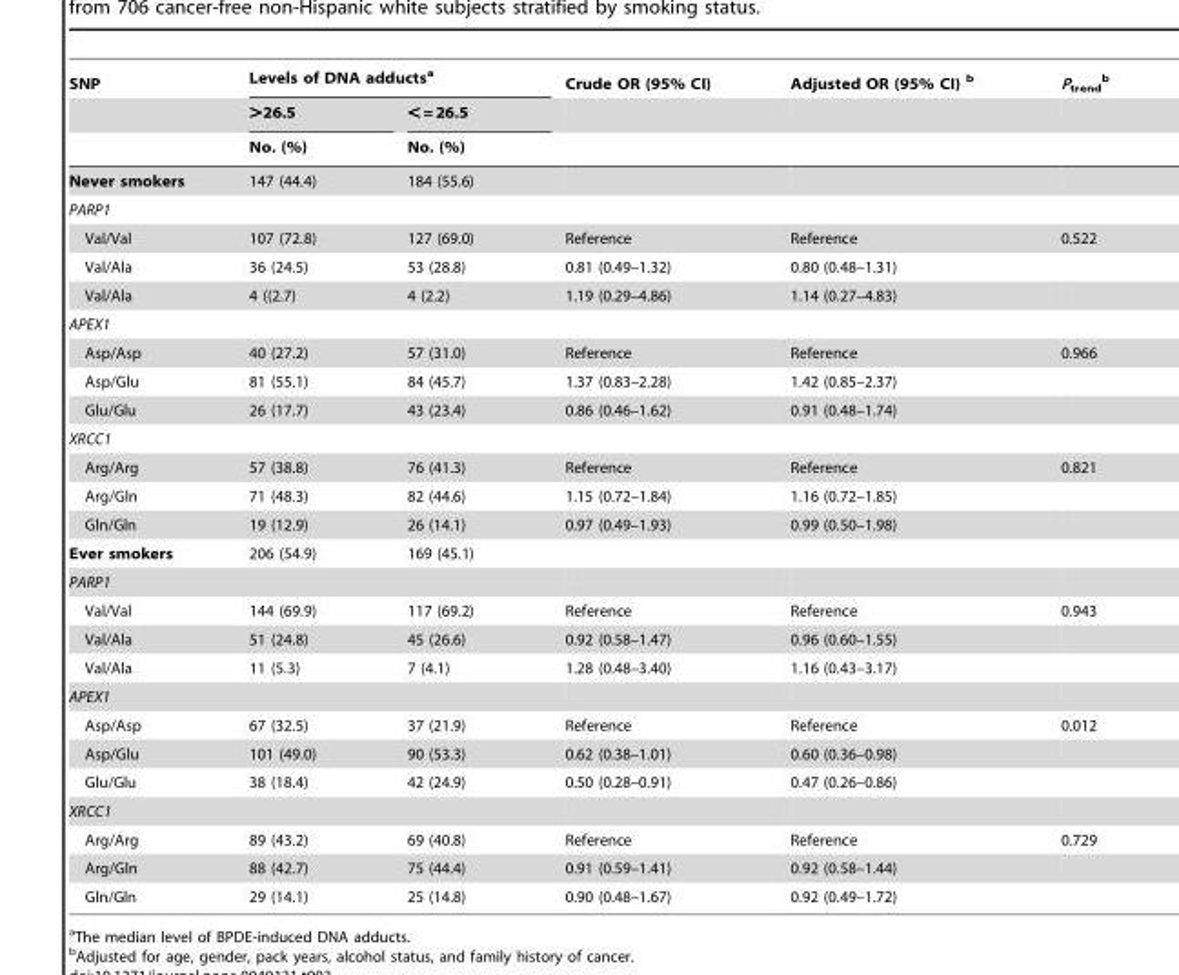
<table><thead><tr><td rowspan="3">SNP</td><td colspan="2">Levels of DNA adducts<sup>a</sup></td><td rowspan="3">Crude OR (95% CI)</td><td rowspan="3">Adjusted OR (95% CI) b</td><td rowspan="3">P<sub>trend</sub> b</td></tr><tr><td rowspan="2">&gt;26.5 No. (%)</td><td rowspan="2">&lt; = 26.5 No. (%)</td></tr><tr></tr></thead><tbody><tr><td>Never smokers</td><td>147 (44.4)</td><td>184 (55.6)</td><td></td><td></td><td></td></tr><tr><td colspan="6">PARP1</td></tr><tr><td>Val/Val</td><td>107 (72.8)</td><td>127 (69.0)</td><td>Reference</td><td>Reference</td><td>0.522</td></tr><tr><td>Val/Ala</td><td>36 (24.5)</td><td>53 (28.8)</td><td>0.81 (0.49–1.32)</td><td>0.80 (0.48–1.31)</td><td></td></tr><tr><td>Val/Ala</td><td>4 ((2.7)</td><td>4 (2.2)</td><td>1.19 (0.29–4.86)</td><td>1.14 (0.27–4.83)</td><td></td></tr><tr><td colspan="6">APEX1</td></tr><tr><td>Asp/Asp</td><td>40 (27.2)</td><td>57 (31.0)</td><td>Reference</td><td>Reference</td><td>0.966</td></tr><tr><td>Asp/Glu</td><td>81 (55.1)</td><td>84 (45.7)</td><td>1.37 (0.83–2.28)</td><td>1.42 (0.85–2.37)</td><td></td></tr><tr><td>Glu/Glu</td><td>26 (17.7)</td><td>43 (23.4)</td><td>0.86 (0.46–1.62)</td><td>0.91 (0.48–1.74)</td><td></td></tr><tr><td colspan="6">XRCC1</td></tr><tr><td>Arg/Arg</td><td>57 (38.8)</td><td>76 (41.3)</td><td>Reference</td><td>Reference</td><td>0.821</td></tr><tr><td>Arg/Gln</td><td>71 (48.3)</td><td>82 (44.6)</td><td>1.15 (0.72–1.84)</td><td>1.16 (0.72–1.85)</td><td></td></tr><tr><td>Gln/Gln</td><td>19 (12.9)</td><td>26 (14.1)</td><td>0.97 (0.49–1.93)</td><td>0.99 (0.50–1.98)</td><td></td></tr><tr><td>Ever smokers</td><td>206 (54.9)</td><td>169 (45.1)</td><td></td><td></td><td></td></tr><tr><td colspan="6">PARP1</td></tr><tr><td>Val/Val</td><td>144 (69.9)</td><td>117 (69.2)</td><td>Reference</td><td>Reference</td><td>0.943</td></tr><tr><td>Val/Ala</td><td>51 (24.8)</td><td>45 (26.6)</td><td>0.92 (0.58–1.47)</td><td>0.96 (0.60–1.55)</td><td></td></tr><tr><td>Val/Ala</td><td>11 (5.3)</td><td>7 (4.1)</td><td>1.28 (0.48–3.40)</td><td>1.16 (0.43–3.17)</td><td></td></tr><tr><td colspan="6">APEX1</td></tr><tr><td>Asp/Asp</td><td>67 (32.5)</td><td>37 (21.9)</td><td>Reference</td><td>Reference</td><td>0.012</td></tr><tr><td>Asp/Glu</td><td>101 (49.0)</td><td>90 (53.3)</td><td>0.62 (0.38–1.01)</td><td>0.60 (0.36–0.98)</td><td></td></tr><tr><td>Glu/Glu</td><td>38 (18.4)</td><td>42 (24.9)</td><td>0.50 (0.28–0.91)</td><td>0.47 (0.26–0.86)</td><td></td></tr><tr><td colspan="6">XRCC1</td></tr><tr><td>Arg/Arg</td><td>89 (43.2)</td><td>69 (40.8)</td><td>Reference</td><td>Reference</td><td>0.729</td></tr><tr><td>Arg/Gln</td><td>88 (42.7)</td><td>75 (44.4)</td><td>0.91 (0.59–1.41)</td><td>0.92 (0.58–1.44)</td><td></td></tr><tr><td>Gln/Gln</td><td>29 (14.1)</td><td>25 (14.8)</td><td>0.90 (0.48–1.67)</td><td>0.92 (0.49–1.72)</td><td></td></tr></tbody></table>